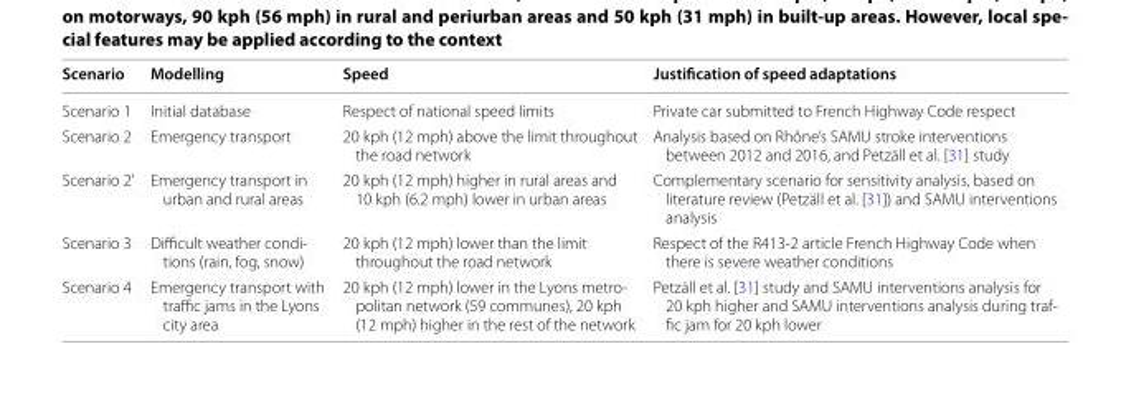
<table><thead><tr><td>Scenario</td><td>Modelling</td><td>Speed</td><td>Justification of speed adaptations</td></tr></thead><tbody><tr><td>Scenario 1</td><td>Initial database</td><td>Respect of national speed limits</td><td>Private car submitted to French Highway Code respect</td></tr><tr><td>Scenario 2</td><td>Emergency transport</td><td>20 kph (12 mph) above the limit throughout the road network</td><td>Analysis based on Rhône’s SAMU stroke interventions between 2012 and 2016, and Petzäll et al. [31] study</td></tr><tr><td>Scenario 2’</td><td>Emergency transport in urban and rural areas</td><td>20 kph (12 mph) higher in rural areas and 10 kph (6.2 mph) lower in urban areas</td><td>Complementary scenario for sensitivity analysis, based on literature review (Petzäll et al. [31]) and SAMU interventions analysis</td></tr><tr><td>Scenario 3</td><td>Difficult weather condi- tions (rain, fog, snow)</td><td>20 kph (12 mph) lower than the limit throughout the road network</td><td>Respect of the R413-2 article French Highway Code when there is severe weather conditions</td></tr><tr><td>Scenario 4</td><td>Emergency transport with traffic jams in the Lyons city area</td><td>20 kph (12 mph) lower in the Lyons metro- politan network (59 communes), 20 kph (12 mph) higher in the rest of the network</td><td>Petzäll et al. [31] study and SAMU interventions analysis for 20 kph higher and SAMU interventions analysis during traf- fic jam for 20 kph lower</td></tr></tbody></table>